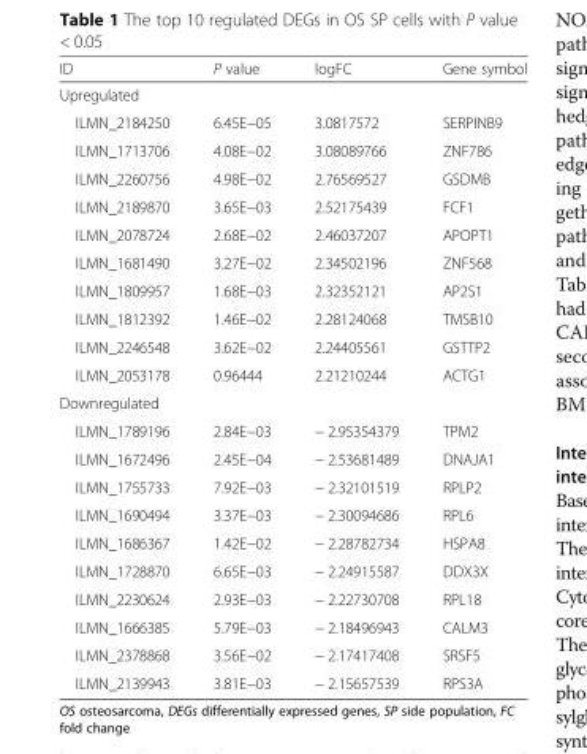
<table><thead><tr><td>ID</td><td>P value</td><td>logFC</td><td>Gene symbol</td></tr></thead><tbody><tr><td colspan="4">Upregulated</td></tr><tr><td>ILMN_2184250</td><td>6.45E−05</td><td>3.0817572</td><td>SERPINB9</td></tr><tr><td>ILMN_1713706</td><td>4.08E−02</td><td>3.08089766</td><td>ZNF786</td></tr><tr><td>ILMN_2260756</td><td>4.98E−02</td><td>2.76569527</td><td>GSDMB</td></tr><tr><td>ILMN_2189870</td><td>3.65E−03</td><td>2.52175439</td><td>FCF1</td></tr><tr><td>ILMN_2078724</td><td>2.68E−02</td><td>2.46037207</td><td>APOPT1</td></tr><tr><td>ILMN_1681490</td><td>3.27E−02</td><td>2.34502196</td><td>ZNF568</td></tr><tr><td>ILMN_1809957</td><td>1.68E−03</td><td>2.32352121</td><td>AP2S1</td></tr><tr><td>ILMN_1812392</td><td>1.46E−02</td><td>2.28124068</td><td>TMSB10</td></tr><tr><td>ILMN_2246548</td><td>3.62E−02</td><td>2.24405561</td><td>GSTTP2</td></tr><tr><td>ILMN_2053178</td><td>0.96444</td><td>2.21210244</td><td>ACTG1</td></tr><tr><td colspan="4">Downregulated</td></tr><tr><td>ILMN_1789196</td><td>2.84E−03</td><td>− 2.95354379</td><td>TPM2</td></tr><tr><td>ILMN_1672496</td><td>2.45E−04</td><td>− 2.53681489</td><td>DNAJA1</td></tr><tr><td>ILMN_1755733</td><td>7.92E−03</td><td>− 2.32101519</td><td>RPLP2</td></tr><tr><td>ILMN_1690494</td><td>3.37E−03</td><td>− 2.30094686</td><td>RPL6</td></tr><tr><td>ILMN_1686367</td><td>1.42E−02</td><td>− 2.28782734</td><td>HSPA8</td></tr><tr><td>ILMN_1728870</td><td>6.65E−03</td><td>− 2.24915587</td><td>DDX3X</td></tr><tr><td>ILMN_2230624</td><td>2.93E−03</td><td>− 2.22730708</td><td>RPL18</td></tr><tr><td>ILMN_1666385</td><td>5.79E−03</td><td>− 2.18496943</td><td>CALM3</td></tr><tr><td>ILMN_2378868</td><td>3.56E−02</td><td>− 2.17417408</td><td>SRSF5</td></tr><tr><td>ILMN_2139943</td><td>3.81E−03</td><td>− 2.15657539</td><td>RPS3A</td></tr></tbody></table>